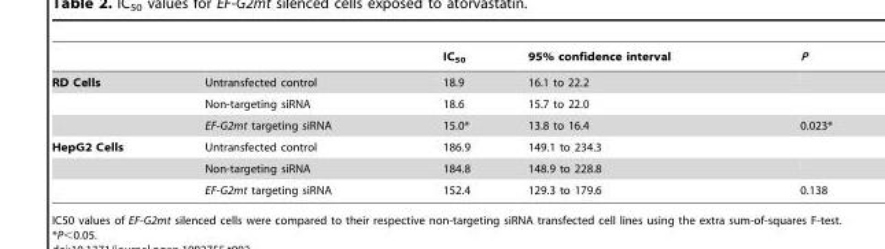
<table><thead><tr><td></td><td></td><td>IC<sub>50</sub></td><td>95% confidence interval</td><td>P</td></tr></thead><tbody><tr><td rowspan="3">RD Cells</td><td>Untransfected control</td><td>18.9</td><td>16.1 to 22.2</td><td></td></tr><tr><td>Non-targeting siRNA</td><td>18.6</td><td>15.7 to 22.0</td><td></td></tr><tr><td>EF-G2mt targeting siRNA</td><td>15.0*</td><td>13.8 to 16.4</td><td>0.023*</td></tr><tr><td rowspan="3">HepG2 Cells</td><td>Untransfected control</td><td>186.9</td><td>149.1 to 234.3</td><td></td></tr><tr><td>Non-targeting siRNA</td><td>184.8</td><td>148.9 to 228.8</td><td></td></tr><tr><td>EF-G2mt targeting siRNA</td><td>152.4</td><td>129.3 to 179.6</td><td>0.138</td></tr></tbody></table>